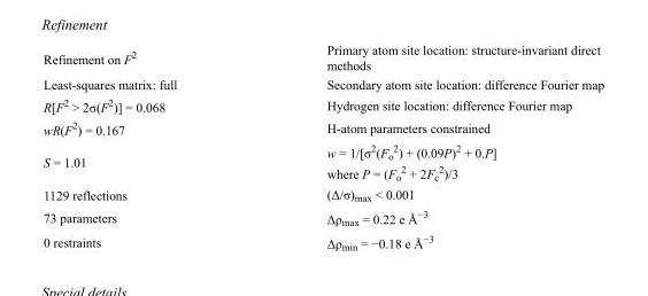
<table><tbody><tr><td>Refinement on F<sup>2</sup></td><td>Primary atom site location: structure-invariant direct methods</td></tr><tr><td>Least-squares matrix: full</td><td>Secondary atom site location: difference Fourier map</td></tr><tr><td>R[F<sup>2</sup> &gt; 2σ(F<sup>2</sup>)] = 0.068</td><td>Hydrogen site location: difference Fourier map</td></tr><tr><td>wR(F<sup>2</sup>) = 0.167</td><td>H-atom parameters constrained</td></tr><tr><td>S = 1.01</td><td>w = 1/[σ<sup>2</sup>(F<sub>o</sub> <sup>2</sup>) + (0.09P)<sup>2</sup> + 0.P] where P = (F<sub>o</sub> <sup>2</sup> + 2F<sub>c</sub> <sup>2</sup>)/3</td></tr><tr><td>1129 reflections</td><td>(Δ/σ)<sub>max</sub> &lt; 0.001</td></tr><tr><td>73 parameters</td><td>Δρ<sub>max</sub> = 0.22 e Å<sup>−3</sup></td></tr><tr><td>0 restraints</td><td>Δρ<sub>min</sub> = −0.18 e Å<sup>−3</sup></td></tr></tbody></table>